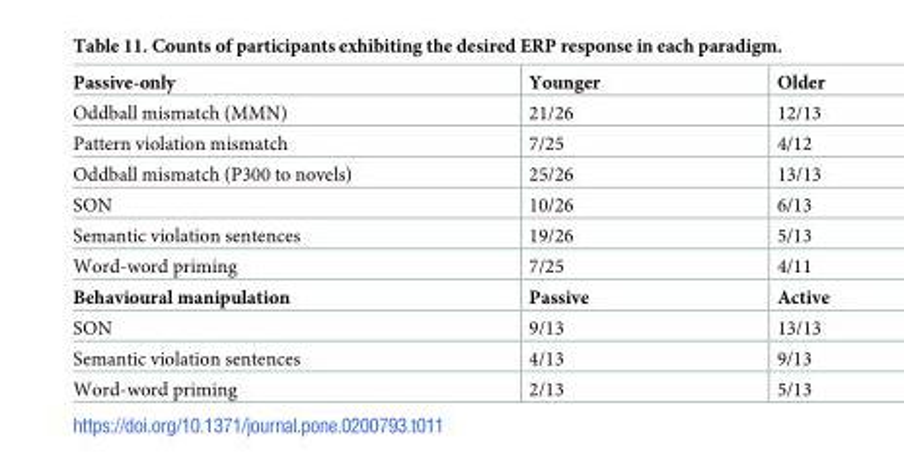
<table><tbody><tr><td>Passive-only</td><td>Younger</td><td>Older</td></tr><tr><td>Oddball mismatch (MMN)</td><td>21/26</td><td>12/13</td></tr><tr><td>Pattern violation mismatch</td><td>7/25</td><td>4/12</td></tr><tr><td>Oddball mismatch (P300 to novels)</td><td>25/26</td><td>13/13</td></tr><tr><td>SON</td><td>10/26</td><td>6/13</td></tr><tr><td>Semantic violation sentences</td><td>19/26</td><td>5/13</td></tr><tr><td>Word-word priming</td><td>7/25</td><td>4/11</td></tr><tr><td>Behavioural manipulation</td><td>Passive</td><td>Active</td></tr><tr><td>SON</td><td>9/13</td><td>13/13</td></tr><tr><td>Semantic violation sentences</td><td>4/13</td><td>9/13</td></tr><tr><td>Word-word priming</td><td>2/13</td><td>5/13</td></tr></tbody></table>